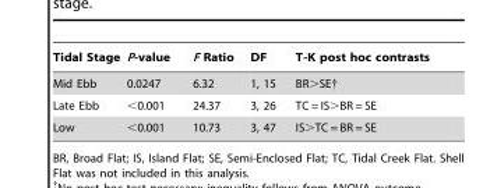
<table><thead><tr><td>Tidal Stage</td><td>P-value</td><td>F Ratio</td><td>DF</td><td>T-K post hoc contrasts</td></tr></thead><tbody><tr><td>Mid Ebb</td><td>0.0247</td><td>6.32</td><td>1, 15</td><td>BR&gt;SE†</td></tr><tr><td>Late Ebb</td><td>&lt;0.001</td><td>24.37</td><td>3, 26</td><td>TC = IS&gt;BR = SE</td></tr><tr><td>Low</td><td>&lt;0.001</td><td>10.73</td><td>3, 47</td><td>IS&gt;TC = BR = SE</td></tr></tbody></table>